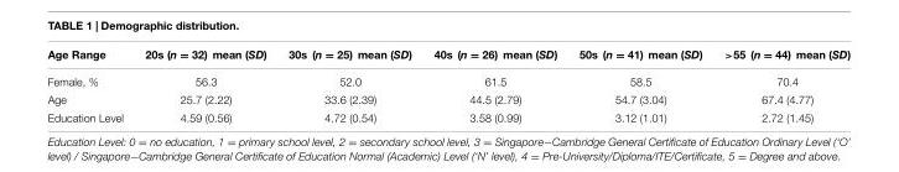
<table><thead><tr><td>Age Range</td><td>20s (n = 32) mean (SD)</td><td>30s (n = 25) mean (SD)</td><td>40s (n = 26) mean (SD)</td><td>50s (n = 41) mean (SD)</td><td>&gt;55 (n = 44) mean (SD)</td></tr></thead><tbody><tr><td>Female, %</td><td>56.3</td><td>52.0</td><td>61.5</td><td>58.5</td><td>70.4</td></tr><tr><td>Age</td><td>25.7 (2.22)</td><td>33.6 (2.39)</td><td>44.5 (2.79)</td><td>54.7 (3.04)</td><td>67.4 (4.77)</td></tr><tr><td>Education Level</td><td>4.59 (0.56)</td><td>4.72 (0.54)</td><td>3.58 (0.99)</td><td>3.12 (1.01)</td><td>2.72 (1.45)</td></tr></tbody></table>